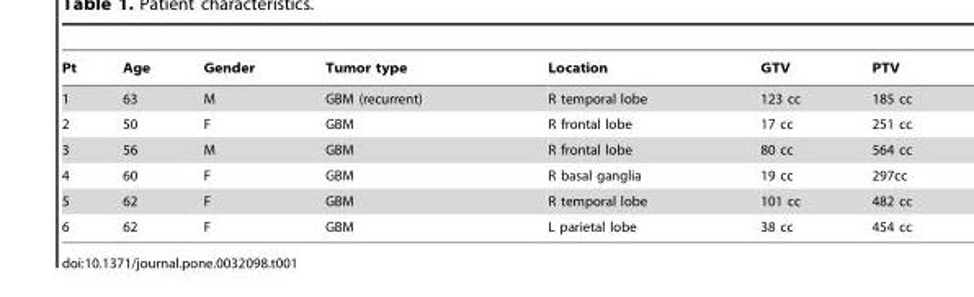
<table><thead><tr><td>Pt</td><td>Age</td><td>Gender</td><td>Tumor type</td><td>Location</td><td>GTV</td><td>PTV</td></tr></thead><tbody><tr><td>1</td><td>63</td><td>M</td><td>GBM (recurrent)</td><td>R temporal lobe</td><td>123 cc</td><td>185 cc</td></tr><tr><td>2</td><td>50</td><td>F</td><td>GBM</td><td>R frontal lobe</td><td>17 cc</td><td>251 cc</td></tr><tr><td>3</td><td>56</td><td>M</td><td>GBM</td><td>R frontal lobe</td><td>80 cc</td><td>564 cc</td></tr><tr><td>4</td><td>60</td><td>F</td><td>GBM</td><td>R basal ganglia</td><td>19 cc</td><td>297cc</td></tr><tr><td>5</td><td>62</td><td>F</td><td>GBM</td><td>R temporal lobe</td><td>101 cc</td><td>482 cc</td></tr><tr><td>6</td><td>62</td><td>F</td><td>GBM</td><td>L parietal lobe</td><td>38 cc</td><td>454 cc</td></tr></tbody></table>